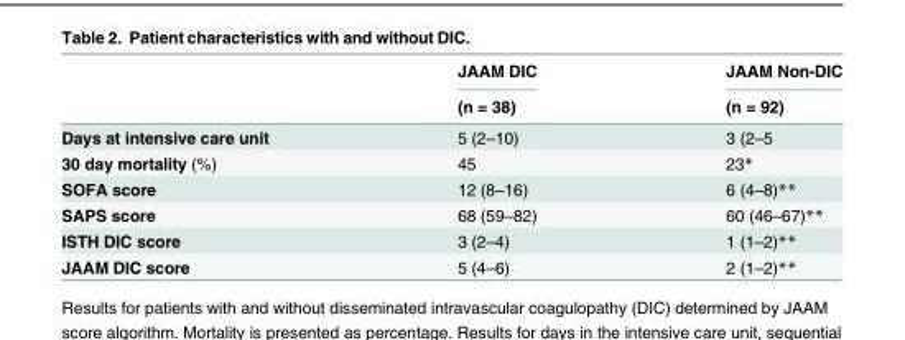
<table><thead><tr><td rowspan="2"></td><td rowspan="2">JAAM DIC (n = 38)</td><td rowspan="2">JAAM Non-DIC (n = 92)</td></tr><tr></tr></thead><tbody><tr><td>Days at intensive care unit</td><td>5 (2–10)</td><td>3 (2–5</td></tr><tr><td>30 day mortality (%)</td><td>45</td><td>23*</td></tr><tr><td>SOFA score</td><td>12 (8–16)</td><td>6 (4–8)**</td></tr><tr><td>SAPS score</td><td>68 (59–82)</td><td>60 (46–67)**</td></tr><tr><td>ISTH DIC score</td><td>3 (2–4)</td><td>1 (1–2)**</td></tr><tr><td>JAAM DIC score</td><td>5 (4–6)</td><td>2 (1–2)**</td></tr></tbody></table>